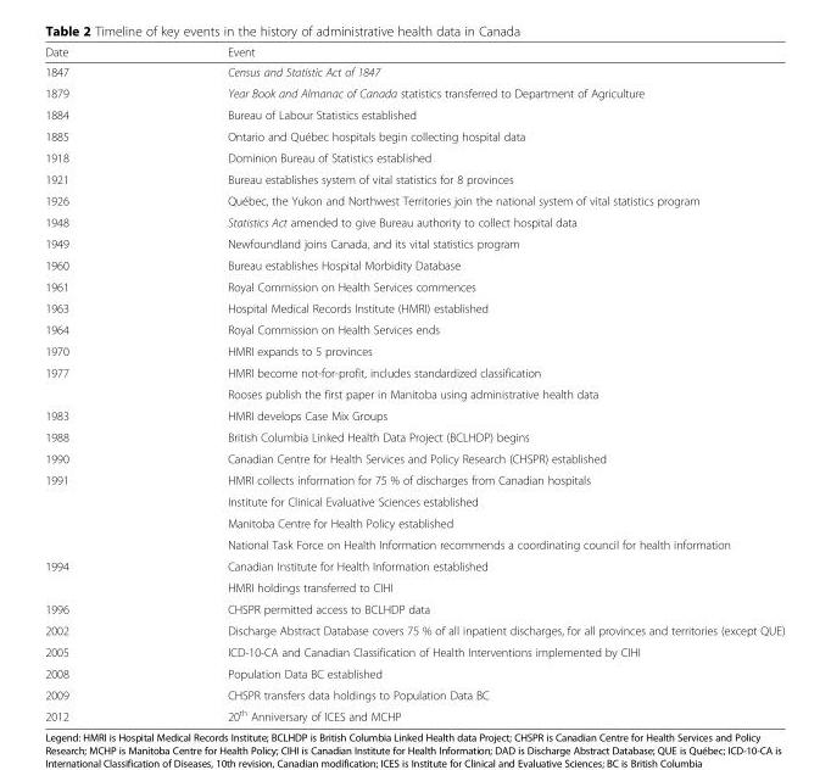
<table><thead><tr><td>Date</td><td>Event</td></tr></thead><tbody><tr><td>1847</td><td>Census and Statistic Act of 1847</td></tr><tr><td>1879</td><td>Year Book and Almanac of Canada statistics transferred to Department of Agriculture</td></tr><tr><td>1884</td><td>Bureau of Labour Statistics established</td></tr><tr><td>1885</td><td>Ontario and Québec hospitals begin collecting hospital data</td></tr><tr><td>1918</td><td>Dominion Bureau of Statistics established</td></tr><tr><td>1921</td><td>Bureau establishes system of vital statistics for 8 provinces</td></tr><tr><td>1926</td><td>Québec, the Yukon and Northwest Territories join the national system of vital statistics program</td></tr><tr><td>1948</td><td>Statistics Act amended to give Bureau authority to collect hospital data</td></tr><tr><td>1949</td><td>Newfoundland joins Canada, and its vital statistics program</td></tr><tr><td>1960</td><td>Bureau establishes Hospital Morbidity Database</td></tr><tr><td>1961</td><td>Royal Commission on Health Services commences</td></tr><tr><td>1963</td><td>Hospital Medical Records Institute (HMRI) established</td></tr><tr><td>1964</td><td>Royal Commission on Health Services ends</td></tr><tr><td>1970</td><td>HMRI expands to 5 provinces</td></tr><tr><td rowspan="2">1977</td><td>HMRI become not-for-profit, includes standardized classification</td></tr><tr><td>Rooses publish the first paper in Manitoba using administrative health data</td></tr><tr><td>1983</td><td>HMRI develops Case Mix Groups</td></tr><tr><td>1988</td><td>British Columbia Linked Health Data Project (BCLHDP) begins</td></tr><tr><td>1990</td><td>Canadian Centre for Health Services and Policy Research (CHSPR) established</td></tr><tr><td rowspan="4">1991</td><td>HMRI collects information for 75 % of discharges from Canadian hospitals</td></tr><tr><td>Institute for Clinical Evaluative Sciences established</td></tr><tr><td>Manitoba Centre for Health Policy established</td></tr><tr><td>National Task Force on Health Information recommends a coordinating council for health information</td></tr><tr><td rowspan="2">1994</td><td>Canadian Institute for Health Information established</td></tr><tr><td>HMRI holdings transferred to CIHI</td></tr><tr><td>1996</td><td>CHSPR permitted access to BCLHDP data</td></tr><tr><td>2002</td><td>Discharge Abstract Database covers 75 % of all inpatient discharges, for all provinces and territories (except QUE)</td></tr><tr><td>2005</td><td>ICD-10-CA and Canadian Classification of Health Interventions implemented by CIHI</td></tr><tr><td>2008</td><td>Population Data BC established</td></tr><tr><td>2009</td><td>CHSPR transfers data holdings to Population Data BC</td></tr><tr><td>2012</td><td>20<sup>th</sup> Anniversary of ICES and MCHP</td></tr></tbody></table>